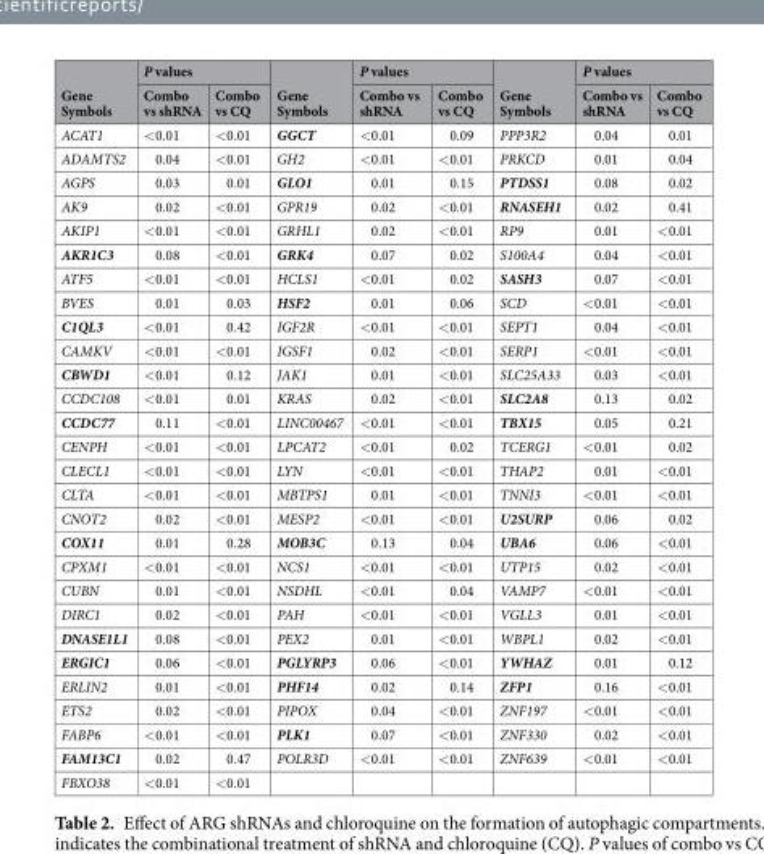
<table><thead><tr><td rowspan="2">Gene Symbols</td><td colspan="2">P values</td><td rowspan="2">Gene Symbols</td><td colspan="2">P values</td><td rowspan="2">Gene Symbols</td><td colspan="2">P values</td></tr><tr><td>Combo vs shRNA</td><td>Combo vs CQ</td><td>Combo vs shRNA</td><td>Combo vs CQ</td><td>Combo vs shRNA</td><td>Combo vs CQ</td></tr></thead><tbody><tr><td>ACAT1</td><td>&lt;0.01</td><td>&lt;0.01</td><td>GGCT</td><td>&lt;0.01</td><td>0.09</td><td>PPP3R2</td><td>0.04</td><td>0.01</td></tr><tr><td>ADAMTS2</td><td>0.04</td><td>&lt;0.01</td><td>GH2</td><td>&lt;0.01</td><td>&lt;0.01</td><td>PRKCD</td><td>0.01</td><td>0.04</td></tr><tr><td>AGPS</td><td>0.03</td><td>0.01</td><td>GLO1</td><td>0.01</td><td>0.15</td><td>PTDSS1</td><td>0.08</td><td>0.02</td></tr><tr><td>AK9</td><td>0.02</td><td>&lt;0.01</td><td>GPR19</td><td>0.02</td><td>&lt;0.01</td><td>RNASEH1</td><td>0.02</td><td>0.41</td></tr><tr><td>AKIP1</td><td>&lt;0.01</td><td>&lt;0.01</td><td>GRHL1</td><td>0.02</td><td>&lt;0.01</td><td>RP9</td><td>0.01</td><td>&lt;0.01</td></tr><tr><td>AKR1C3</td><td>0.08</td><td>&lt;0.01</td><td>GRK4</td><td>0.07</td><td>0.02</td><td>S100A4</td><td>0.04</td><td>&lt;0.01</td></tr><tr><td>ATF5</td><td>&lt;0.01</td><td>&lt;0.01</td><td>HCLS1</td><td>&lt;0.01</td><td>0.02</td><td>SASH3</td><td>0.07</td><td>&lt;0.01</td></tr><tr><td>BVES</td><td>0.01</td><td>0.03</td><td>HSF2</td><td>0.01</td><td>0.06</td><td>SCD</td><td>&lt;0.01</td><td>&lt;0.01</td></tr><tr><td>C1QL3</td><td>&lt;0.01</td><td>0.42</td><td>IGF2R</td><td>&lt;0.01</td><td>&lt;0.01</td><td>SEPT1</td><td>0.04</td><td>&lt;0.01</td></tr><tr><td>CAMKV</td><td>&lt;0.01</td><td>&lt;0.01</td><td>IGSF1</td><td>0.02</td><td>&lt;0.01</td><td>SERP1</td><td>&lt;0.01</td><td>&lt;0.01</td></tr><tr><td>CBWD1</td><td>&lt;0.01</td><td>0.12</td><td>JAK1</td><td>0.01</td><td>&lt;0.01</td><td>SLC25A33</td><td>0.03</td><td>&lt;0.01</td></tr><tr><td>CCDC108</td><td>&lt;0.01</td><td>0.01</td><td>KRAS</td><td>0.02</td><td>&lt;0.01</td><td>SLC2A8</td><td>0.13</td><td>0.02</td></tr><tr><td>CCDC77</td><td>0.11</td><td>&lt;0.01</td><td>LINC00467</td><td>&lt;0.01</td><td>&lt;0.01</td><td>TBX15</td><td>0.05</td><td>0.21</td></tr><tr><td>CENPH</td><td>&lt;0.01</td><td>&lt;0.01</td><td>LPCAT2</td><td>&lt;0.01</td><td>0.02</td><td>TCERG1</td><td>&lt;0.01</td><td>0.02</td></tr><tr><td>CLECL1</td><td>&lt;0.01</td><td>&lt;0.01</td><td>LYN</td><td>&lt;0.01</td><td>&lt;0.01</td><td>THAP2</td><td>0.01</td><td>&lt;0.01</td></tr><tr><td>CLTA</td><td>&lt;0.01</td><td>&lt;0.01</td><td>MBTPS1</td><td>0.01</td><td>&lt;0.01</td><td>TNNI3</td><td>&lt;0.01</td><td>&lt;0.01</td></tr><tr><td>CNOT2</td><td>0.02</td><td>&lt;0.01</td><td>MESP2</td><td>&lt;0.01</td><td>&lt;0.01</td><td>U2SURP</td><td>0.06</td><td>0.02</td></tr><tr><td>COX11</td><td>0.01</td><td>0.28</td><td>MOB3C</td><td>0.13</td><td>0.04</td><td>UBA6</td><td>0.06</td><td>&lt;0.01</td></tr><tr><td>CPXM1</td><td>&lt;0.01</td><td>&lt;0.01</td><td>NCS1</td><td>&lt;0.01</td><td>&lt;0.01</td><td>UTP15</td><td>0.02</td><td>&lt;0.01</td></tr><tr><td>CUBN</td><td>0.01</td><td>&lt;0.01</td><td>NSDHL</td><td>&lt;0.01</td><td>0.04</td><td>VAMP7</td><td>&lt;0.01</td><td>&lt;0.01</td></tr><tr><td>DIRC1</td><td>0.02</td><td>&lt;0.01</td><td>PAH</td><td>&lt;0.01</td><td>&lt;0.01</td><td>VGLL3</td><td>0.01</td><td>&lt;0.01</td></tr><tr><td>DNASE1L1</td><td>0.08</td><td>&lt;0.01</td><td>PEX2</td><td>0.01</td><td>&lt;0.01</td><td>WBPL1</td><td>0.02</td><td>&lt;0.01</td></tr><tr><td>ERGIC1</td><td>0.06</td><td>&lt;0.01</td><td>PGLYRP3</td><td>0.06</td><td>&lt;0.01</td><td>YWHAZ</td><td>0.01</td><td>0.12</td></tr><tr><td>ERLIN2</td><td>0.01</td><td>&lt;0.01</td><td>PHF14</td><td>0.02</td><td>0.14</td><td>ZFP1</td><td>0.16</td><td>&lt;0.01</td></tr><tr><td>ETS2</td><td>0.02</td><td>&lt;0.01</td><td>PIPOX</td><td>0.04</td><td>&lt;0.01</td><td>ZNF197</td><td>&lt;0.01</td><td>&lt;0.01</td></tr><tr><td>FABP6</td><td>&lt;0.01</td><td>&lt;0.01</td><td>PLK1</td><td>0.07</td><td>&lt;0.01</td><td>ZNF330</td><td>0.02</td><td>&lt;0.01</td></tr><tr><td>FAM13C1</td><td>0.02</td><td>0.47</td><td>POLR3D</td><td>&lt;0.01</td><td>&lt;0.01</td><td>ZNF639</td><td>&lt;0.01</td><td>&lt;0.01</td></tr><tr><td>FBXO38</td><td>&lt;0.01</td><td>&lt;0.01</td><td></td><td></td><td></td><td></td><td></td><td></td></tr></tbody></table>